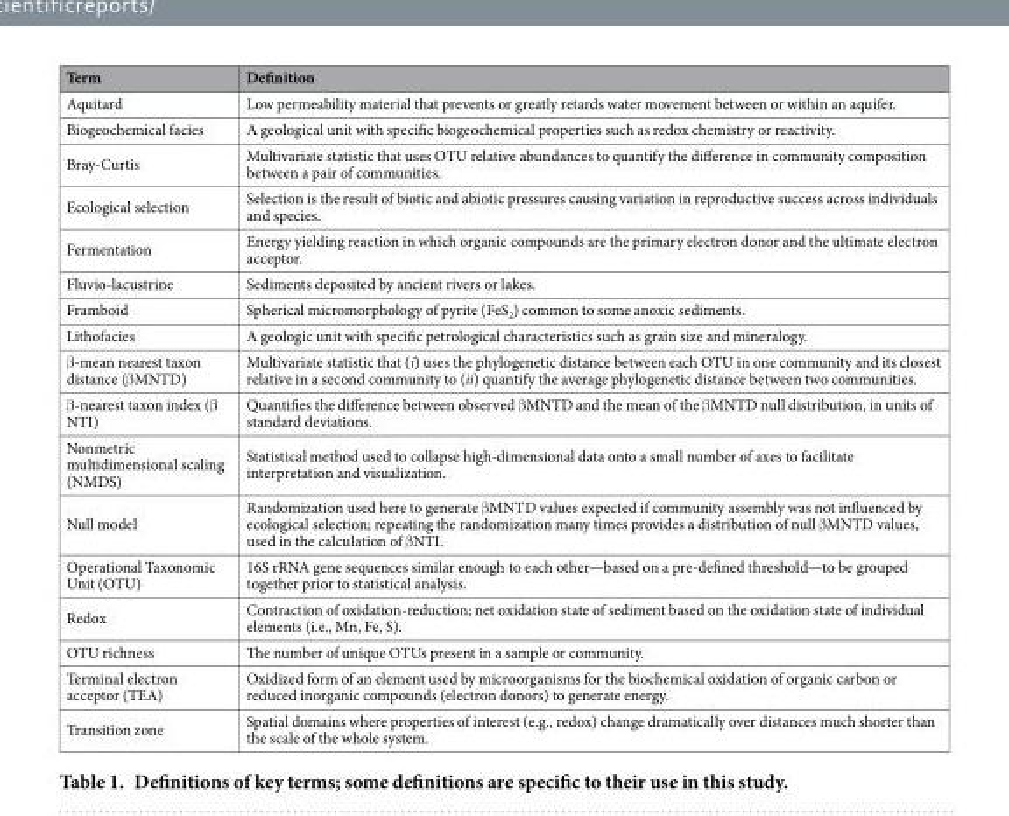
<table><thead><tr><td>Term</td><td>Definition</td></tr></thead><tbody><tr><td>Aquitard</td><td>Low permeability material that prevents or greatly retards water movement between or within an aquifer.</td></tr><tr><td>Biogeochemical facies</td><td>A geological unit with specific biogeochemical properties such as redox chemistry or reactivity.</td></tr><tr><td>Bray-Curtis</td><td>Multivariate statistic that uses OTU relative abundances to quantify the difference in community composition between a pair of communities.</td></tr><tr><td>Ecological selection</td><td>Selection is the result of biotic and abiotic pressures causing variation in reproductive success across individuals and species.</td></tr><tr><td>Fermentation</td><td>Energy yielding reaction in which organic compounds are the primary electron donor and the ultimate electron acceptor.</td></tr><tr><td>Fluvio-lacustrine</td><td>Sediments deposited by ancient rivers or lakes.</td></tr><tr><td>Framboid</td><td>Spherical micromorphology of pyrite (FeS<sub>2</sub>) common to some anoxic sediments.</td></tr><tr><td>Lithofacies</td><td>A geologic unit with specific petrological characteristics such as grain size and mineralogy.</td></tr><tr><td>β -mean nearest taxon distance (β MNTD)</td><td>Multivariate statistic that (i) uses the phylogenetic distance between each OTU in one community and its closest relative in a second community to (ii) quantify the average phylogenetic distance between two communities.</td></tr><tr><td>β -nearest taxon index (β NTI)</td><td>Quantifies the difference between observed β MNTD and the mean of the β MNTD null distribution, in units of standard deviations.</td></tr><tr><td>Nonmetric multidimensional scaling (NMDS)</td><td>Statistical method used to collapse high-dimensional data onto a small number of axes to facilitate interpretation and visualization.</td></tr><tr><td>Null model</td><td>Randomization used here to generate β MNTD values expected if community assembly was not influenced by ecological selection; repeating the randomization many times provides a distribution of null β MNTD values, used in the calculation of β NTI.</td></tr><tr><td>Operational Taxonomic Unit (OTU)</td><td>16S rRNA gene sequences similar enough to each other—based on a pre-defined threshold—to be grouped together prior to statistical analysis.</td></tr><tr><td>Redox</td><td>Contraction of oxidation-reduction; net oxidation state of sediment based on the oxidation state of individual elements (i.e., Mn, Fe, S).</td></tr><tr><td>OTU richness</td><td>The number of unique OTUs present in a sample or community.</td></tr><tr><td>Terminal electron acceptor (TEA)</td><td>Oxidized form of an element used by microorganisms for the biochemical oxidation of organic carbon or reduced inorganic compounds (electron donors) to generate energy.</td></tr><tr><td>Transition zone</td><td>Spatial domains where properties of interest (e.g., redox) change dramatically over distances much shorter than the scale of the whole system.</td></tr></tbody></table>